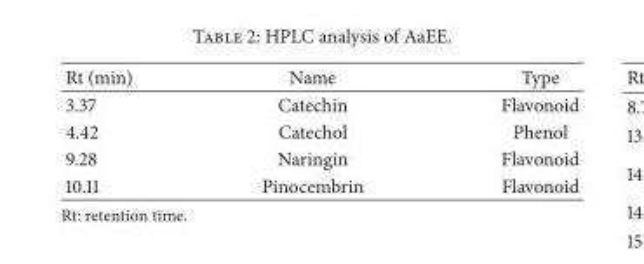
<table><thead><tr><td>Rt (min)</td><td>Name</td><td>Type</td></tr></thead><tbody><tr><td>3.37</td><td>Catechin</td><td>Flavonoid</td></tr><tr><td>4.42</td><td>Catechol</td><td>Phenol</td></tr><tr><td>9.28</td><td>Naringin</td><td>Flavonoid</td></tr><tr><td>10.11</td><td>Pinocembrin</td><td>Flavonoid</td></tr></tbody></table>